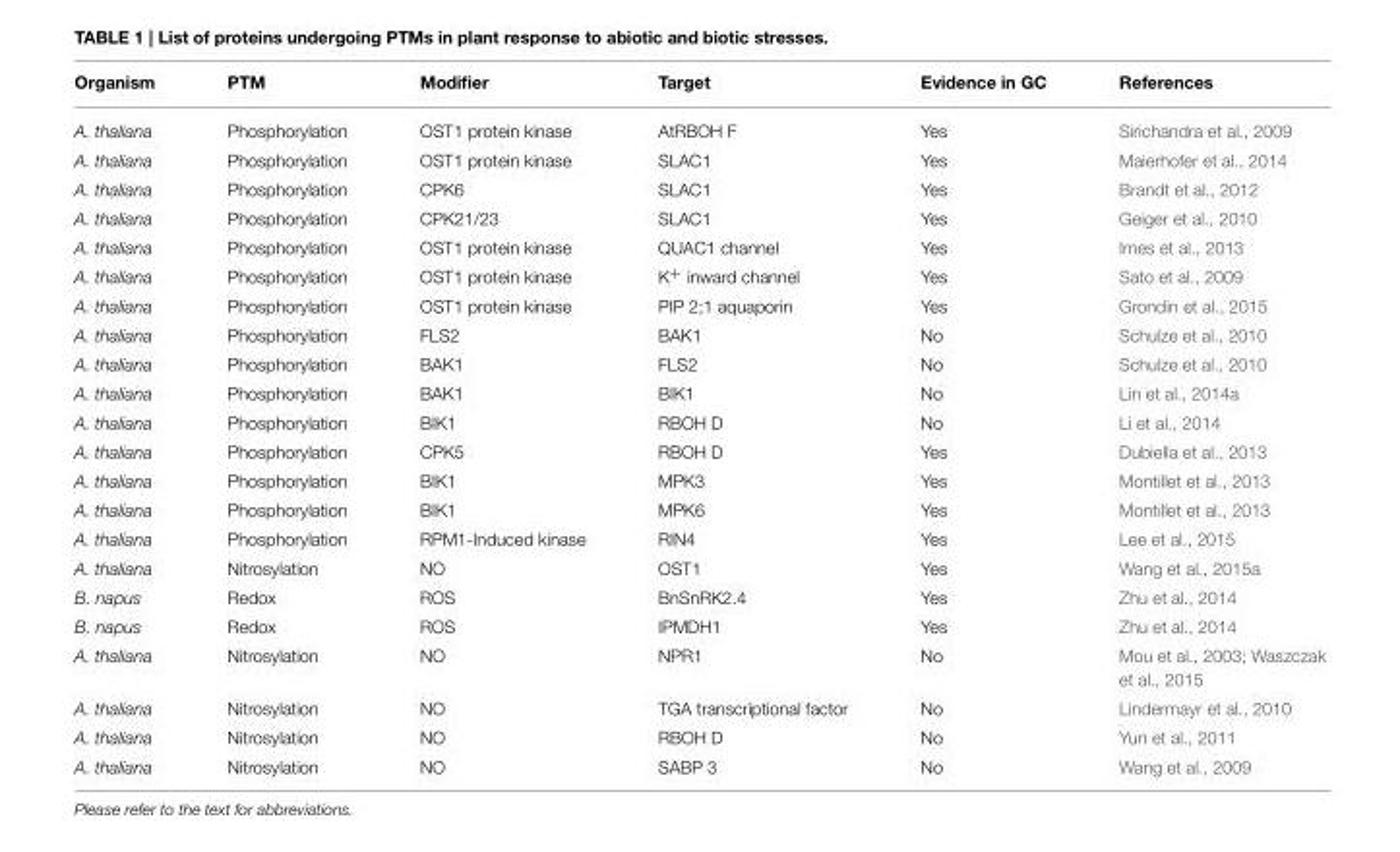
<table><thead><tr><td>Organism</td><td>PTM</td><td>Modifier</td><td>Target</td><td>Evidence in GC</td><td>References</td></tr></thead><tbody><tr><td>A. thaliana</td><td>Phosphorylation</td><td>OST1 protein kinase</td><td>AtRBOH F</td><td>Yes</td><td>Sirichandra et al., 2009</td></tr><tr><td>A. thaliana</td><td>Phosphorylation</td><td>OST1 protein kinase</td><td>SLAC1</td><td>Yes</td><td>Maierhofer et al., 2014</td></tr><tr><td>A. thaliana</td><td>Phosphorylation</td><td>CPK6</td><td>SLAC1</td><td>Yes</td><td>Brandt et al., 2012</td></tr><tr><td>A. thaliana</td><td>Phosphorylation</td><td>CPK21/23</td><td>SLAC1</td><td>Yes</td><td>Geiger et al., 2010</td></tr><tr><td>A. thaliana</td><td>Phosphorylation</td><td>OST1 protein kinase</td><td>QUAC1 channel</td><td>Yes</td><td>Imes et al., 2013</td></tr><tr><td>A. thaliana</td><td>Phosphorylation</td><td>OST1 protein kinase</td><td>K<sup>+</sup> inward channel</td><td>Yes</td><td>Sato et al., 2009</td></tr><tr><td>A. thaliana</td><td>Phosphorylation</td><td>OST1 protein kinase</td><td>PIP 2;1 aquaporin</td><td>Yes</td><td>Grondin et al., 2015</td></tr><tr><td>A. thaliana</td><td>Phosphorylation</td><td>FLS2</td><td>BAK1</td><td>No</td><td>Schulze et al., 2010</td></tr><tr><td>A. thaliana</td><td>Phosphorylation</td><td>BAK1</td><td>FLS2</td><td>No</td><td>Schulze et al., 2010</td></tr><tr><td>A. thaliana</td><td>Phosphorylation</td><td>BAK1</td><td>BIK1</td><td>No</td><td>Lin et al., 2014a</td></tr><tr><td>A. thaliana</td><td>Phosphorylation</td><td>BIK1</td><td>RBOH D</td><td>No</td><td>Li et al., 2014</td></tr><tr><td>A. thaliana</td><td>Phosphorylation</td><td>CPK5</td><td>RBOH D</td><td>Yes</td><td>Dubiella et al., 2013</td></tr><tr><td>A. thaliana</td><td>Phosphorylation</td><td>BIK1</td><td>MPK3</td><td>Yes</td><td>Montillet et al., 2013</td></tr><tr><td>A. thaliana</td><td>Phosphorylation</td><td>BIK1</td><td>MPK6</td><td>Yes</td><td>Montillet et al., 2013</td></tr><tr><td>A. thaliana</td><td>Phosphorylation</td><td>RPM1-Induced kinase</td><td>RIN4</td><td>Yes</td><td>Lee et al., 2015</td></tr><tr><td>A. thaliana</td><td>Nitrosylation</td><td>NO</td><td>OST1</td><td>Yes</td><td>Wang et al., 2015a</td></tr><tr><td>B. napus</td><td>Redox</td><td>ROS</td><td>BnSnRK2.4</td><td>Yes</td><td>Zhu et al., 2014</td></tr><tr><td>B. napus</td><td>Redox</td><td>ROS</td><td>IPMDH1</td><td>Yes</td><td>Zhu et al., 2014</td></tr><tr><td>A. thaliana</td><td>Nitrosylation</td><td>NO</td><td>NPR1</td><td>No</td><td>Mou et al., 2003; Waszczak et al., 2015</td></tr><tr><td>A. thaliana</td><td>Nitrosylation</td><td>NO</td><td>TGA transcriptional factor</td><td>No</td><td>Lindermayr et al., 2010</td></tr><tr><td>A. thaliana</td><td>Nitrosylation</td><td>NO</td><td>RBOH D</td><td>No</td><td>Yun et al., 2011</td></tr><tr><td>A. thaliana</td><td>Nitrosylation</td><td>NO</td><td>SABP 3</td><td>No</td><td>Wang et al., 2009</td></tr></tbody></table>